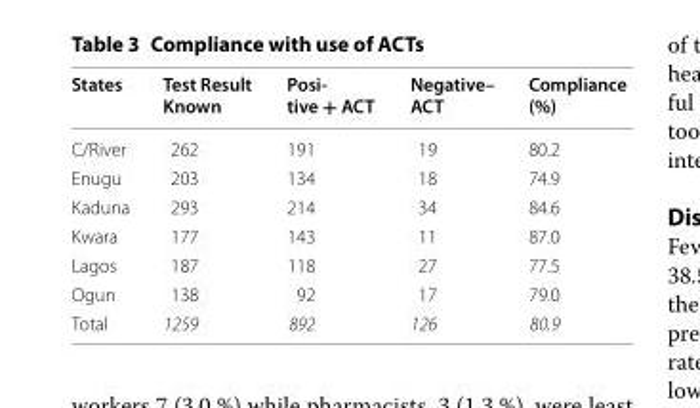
<table><thead><tr><td>States</td><td>Test Result Known</td><td>Posi‑ tive + ACT</td><td>Negative– ACT</td><td>Compliance (%)</td></tr></thead><tbody><tr><td>C/River</td><td>262</td><td>191</td><td>19</td><td>80.2</td></tr><tr><td>Enugu</td><td>203</td><td>134</td><td>18</td><td>74.9</td></tr><tr><td>Kaduna</td><td>293</td><td>214</td><td>34</td><td>84.6</td></tr><tr><td>Kwara</td><td>177</td><td>143</td><td>11</td><td>87.0</td></tr><tr><td>Lagos</td><td>187</td><td>118</td><td>27</td><td>77.5</td></tr><tr><td>Ogun</td><td>138</td><td>92</td><td>17</td><td>79.0</td></tr><tr><td>Total</td><td>1259</td><td>892</td><td>126</td><td>80.9</td></tr></tbody></table>